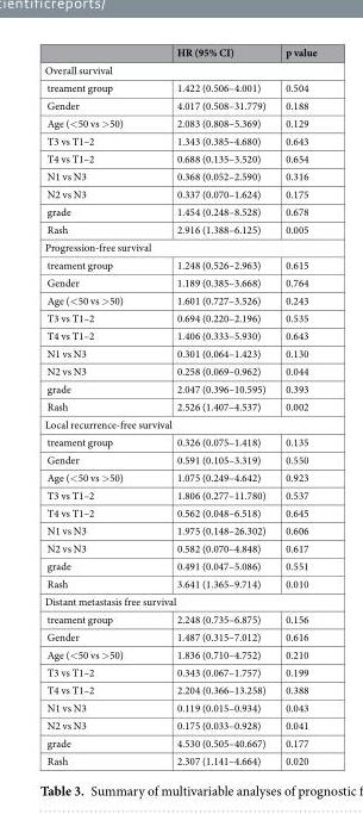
<table><thead><tr><td></td><td>HR (95% CI)</td><td>p value</td></tr></thead><tbody><tr><td colspan="3">Overall survival</td></tr><tr><td>treament group</td><td>1.422 (0.506–4.001)</td><td>0.504</td></tr><tr><td>Gender</td><td>4.017 (0.508–31.779)</td><td>0.188</td></tr><tr><td>Age (&lt;50 vs &gt;50)</td><td>2.083 (0.808–5.369)</td><td>0.129</td></tr><tr><td>T3 vs T1–2</td><td>1.343 (0.385–4.680)</td><td>0.643</td></tr><tr><td>T4 vs T1–2</td><td>0.688 (0.135–3.520)</td><td>0.654</td></tr><tr><td>N1 vs N3</td><td>0.368 (0.052–2.590)</td><td>0.316</td></tr><tr><td>N2 vs N3</td><td>0.337 (0.070–1.624)</td><td>0.175</td></tr><tr><td>grade</td><td>1.454 (0.248–8.528)</td><td>0.678</td></tr><tr><td>Rash</td><td>2.916 (1.388–6.125)</td><td>0.005</td></tr><tr><td colspan="3">Progression-free survival</td></tr><tr><td>treament group</td><td>1.248 (0.526–2.963)</td><td>0.615</td></tr><tr><td>Gender</td><td>1.189 (0.385–3.668)</td><td>0.764</td></tr><tr><td>Age (&lt;50 vs &gt;50)</td><td>1.601 (0.727–3.526)</td><td>0.243</td></tr><tr><td>T3 vs T1–2</td><td>0.694 (0.220–2.196)</td><td>0.535</td></tr><tr><td>T4 vs T1–2</td><td>1.406 (0.333–5.930)</td><td>0.643</td></tr><tr><td>N1 vs N3</td><td>0.301 (0.064–1.423)</td><td>0.130</td></tr><tr><td>N2 vs N3</td><td>0.258 (0.069–0.962)</td><td>0.044</td></tr><tr><td>grade</td><td>2.047 (0.396–10.595)</td><td>0.393</td></tr><tr><td>Rash</td><td>2.526 (1.407–4.537)</td><td>0.002</td></tr><tr><td colspan="3">Local recurrence-free survival</td></tr><tr><td>treament group</td><td>0.326 (0.075–1.418)</td><td>0.135</td></tr><tr><td>Gender</td><td>0.591 (0.105–3.319)</td><td>0.550</td></tr><tr><td>Age (&lt;50 vs &gt;50)</td><td>1.075 (0.249–4.642)</td><td>0.923</td></tr><tr><td>T3 vs T1–2</td><td>1.806 (0.277–11.780)</td><td>0.537</td></tr><tr><td>T4 vs T1–2</td><td>0.562 (0.048–6.518)</td><td>0.645</td></tr><tr><td>N1 vs N3</td><td>1.975 (0.148–26.302)</td><td>0.606</td></tr><tr><td>N2 vs N3</td><td>0.582 (0.070–4.848)</td><td>0.617</td></tr><tr><td>grade</td><td>0.491 (0.047–5.086)</td><td>0.551</td></tr><tr><td>Rash</td><td>3.641 (1.365–9.714)</td><td>0.010</td></tr><tr><td colspan="3">Distant metastasis free survival</td></tr><tr><td>treament group</td><td>2.248 (0.735–6.875)</td><td>0.156</td></tr><tr><td>Gender</td><td>1.487 (0.315–7.012)</td><td>0.616</td></tr><tr><td>Age (&lt;50 vs &gt;50)</td><td>1.836 (0.710–4.752)</td><td>0.210</td></tr><tr><td>T3 vs T1–2</td><td>0.343 (0.067–1.757)</td><td>0.199</td></tr><tr><td>T4 vs T1–2</td><td>2.204 (0.366–13.258)</td><td>0.388</td></tr><tr><td>N1 vs N3</td><td>0.119 (0.015–0.934)</td><td>0.043</td></tr><tr><td>N2 vs N3</td><td>0.175 (0.033–0.928)</td><td>0.041</td></tr><tr><td>grade</td><td>4.530 (0.505–40.667)</td><td>0.177</td></tr><tr><td>Rash</td><td>2.307 (1.141–4.664)</td><td>0.020</td></tr></tbody></table>